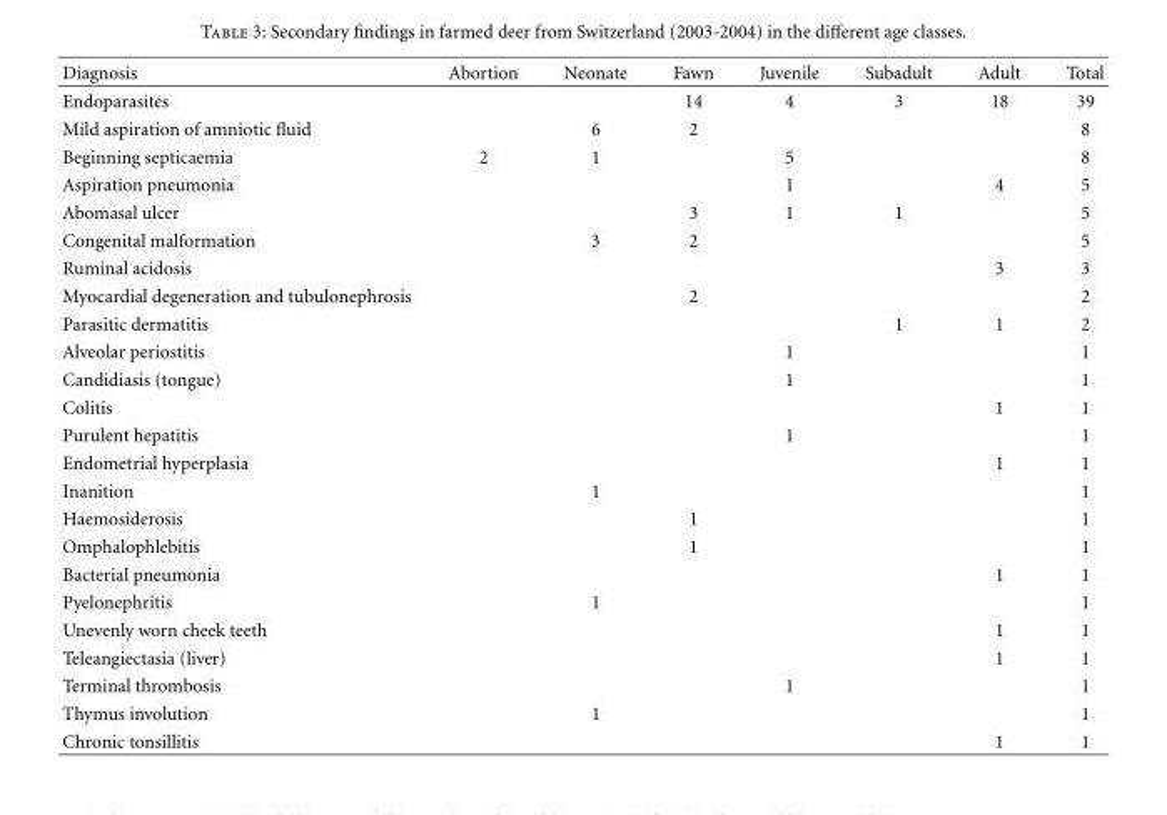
<table><thead><tr><td>Diagnosis</td><td>Abortion</td><td>Neonate</td><td>Fawn</td><td>Juvenile</td><td>Subadult</td><td>Adult</td><td>Total</td></tr></thead><tbody><tr><td>Endoparasites</td><td></td><td></td><td>14</td><td>4</td><td>3</td><td>18</td><td>39</td></tr><tr><td>Mild aspiration of amniotic fluid</td><td></td><td>6</td><td>2</td><td></td><td></td><td></td><td>8</td></tr><tr><td>Beginning septicaemia</td><td>2</td><td>1</td><td></td><td>5</td><td></td><td></td><td>8</td></tr><tr><td>Aspiration pneumonia</td><td></td><td></td><td></td><td>1</td><td></td><td>4</td><td>5</td></tr><tr><td>Abomasal ulcer</td><td></td><td></td><td>3</td><td>1</td><td>1</td><td></td><td>5</td></tr><tr><td>Congenital malformation</td><td></td><td>3</td><td>2</td><td></td><td></td><td></td><td>5</td></tr><tr><td>Ruminal acidosis</td><td></td><td></td><td></td><td></td><td></td><td>3</td><td>3</td></tr><tr><td>Myocardial degeneration and tubulonephrosis</td><td></td><td></td><td>2</td><td></td><td></td><td></td><td>2</td></tr><tr><td>Parasitic dermatitis</td><td></td><td></td><td></td><td></td><td>1</td><td>1</td><td>2</td></tr><tr><td>Alveolar periostitis</td><td></td><td></td><td></td><td>1</td><td></td><td></td><td>1</td></tr><tr><td>Candidiasis (tongue)</td><td></td><td></td><td></td><td>1</td><td></td><td></td><td>1</td></tr><tr><td>Colitis</td><td></td><td></td><td></td><td></td><td></td><td>1</td><td>1</td></tr><tr><td>Purulent hepatitis</td><td></td><td></td><td></td><td>1</td><td></td><td></td><td>1</td></tr><tr><td>Endometrial hyperplasia</td><td></td><td></td><td></td><td></td><td></td><td>1</td><td>1</td></tr><tr><td>Inanition</td><td></td><td>1</td><td></td><td></td><td></td><td></td><td>1</td></tr><tr><td>Haemosiderosis</td><td></td><td></td><td>1</td><td></td><td></td><td></td><td>1</td></tr><tr><td>Omphalophlebitis</td><td></td><td></td><td>1</td><td></td><td></td><td></td><td>1</td></tr><tr><td>Bacterial pneumonia</td><td></td><td></td><td></td><td></td><td></td><td>1</td><td>1</td></tr><tr><td>Pyelonephritis</td><td></td><td>1</td><td></td><td></td><td></td><td></td><td>1</td></tr><tr><td>Unevenly worn cheek teeth</td><td></td><td></td><td></td><td></td><td></td><td>1</td><td>1</td></tr><tr><td>Teleangiectasia (liver)</td><td></td><td></td><td></td><td></td><td></td><td>1</td><td>1</td></tr><tr><td>Terminal thrombosis</td><td></td><td></td><td></td><td>1</td><td></td><td></td><td>1</td></tr><tr><td>Thymus involution</td><td></td><td>1</td><td></td><td></td><td></td><td></td><td>1</td></tr><tr><td>Chronic tonsillitis</td><td></td><td></td><td></td><td></td><td></td><td>1</td><td>1</td></tr></tbody></table>